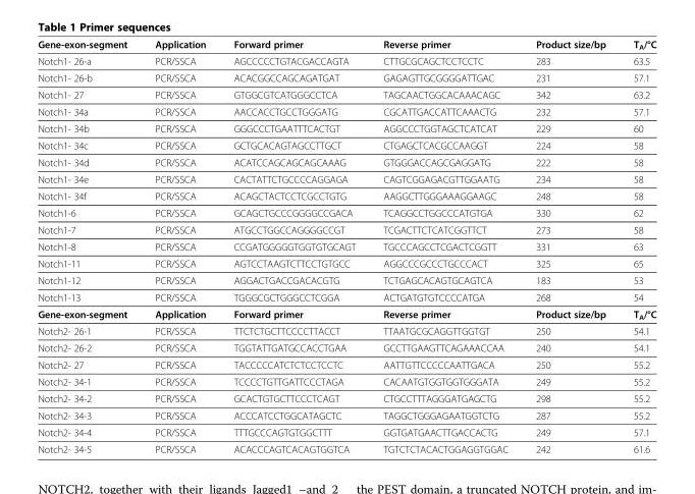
<table><thead><tr><td>Gene-exon-segment</td><td>Application</td><td>Forward primer</td><td>Reverse primer</td><td>Product size/bp</td><td>T<sub>A</sub>/°C</td></tr></thead><tbody><tr><td>Notch1- 26-a</td><td>PCR/SSCA</td><td>AGCCCCCTGTACGACCAGTA</td><td>CTTGCGCAGCTCCTCCTC</td><td>283</td><td>63.5</td></tr><tr><td>Notch1- 26-b</td><td>PCR/SSCA</td><td>ACACGGCCAGCAGATGAT</td><td>GAGAGTTGCGGGGATTGAC</td><td>231</td><td>57.1</td></tr><tr><td>Notch1- 27</td><td>PCR/SSCA</td><td>GTGGCGTCATGGGCCTCA</td><td>TAGCAACTGGCACAAACAGC</td><td>342</td><td>63.2</td></tr><tr><td>Notch1- 34a</td><td>PCR/SSCA</td><td>AACCACCTGCCTGGGATG</td><td>CGCATTGACCATTCAAACTG</td><td>232</td><td>57.1</td></tr><tr><td>Notch1- 34b</td><td>PCR/SSCA</td><td>GGGCCCTGAATTTCACTGT</td><td>AGGCCCTGGTAGCTCATCAT</td><td>229</td><td>60</td></tr><tr><td>Notch1- 34c</td><td>PCR/SSCA</td><td>GCTGCACAGTAGCCTTGCT</td><td>CTGAGCTCACGCCAAGGT</td><td>224</td><td>58</td></tr><tr><td>Notch1- 34d</td><td>PCR/SSCA</td><td>ACATCCAGCAGCAGCAAAG</td><td>GTGGGACCAGCGAGGATG</td><td>222</td><td>58</td></tr><tr><td>Notch1- 34e</td><td>PCR/SSCA</td><td>CACTATTCTGCCCCAGGAGA</td><td>CAGTCGGAGACGTTGGAATG</td><td>234</td><td>58</td></tr><tr><td>Notch1- 34f</td><td>PCR/SSCA</td><td>ACAGCTACTCCTCGCCTGTG</td><td>AAGGCTTGGGAAAGGAAGC</td><td>248</td><td>58</td></tr><tr><td>Notch1-6</td><td>PCR/SSCA</td><td>GCAGCTGCCCGGGGCCGACA</td><td>TCAGGCCTGGCCCATGTGA</td><td>330</td><td>62</td></tr><tr><td>Notch1-7</td><td>PCR/SSCA</td><td>ATGCCTGGCCAGGGGCCGT</td><td>TCGACTTCTCATCGGTTCT</td><td>273</td><td>58</td></tr><tr><td>Notch1-8</td><td>PCR/SSCA</td><td>CCGATGGGGGTGGTGTGCAGT</td><td>TGCCCAGCCTCGACTCGGTT</td><td>331</td><td>63</td></tr><tr><td>Notch1-11</td><td>PCR/SSCA</td><td>AGTCCTAAGTCTTCCTGTGCC</td><td>AGGCCCGCCCTGCCCACT</td><td>325</td><td>65</td></tr><tr><td>Notch1-12</td><td>PCR/SSCA</td><td>AGGACTGACCGACACGTG</td><td>TCTGAGCACAGTGCAGTCA</td><td>183</td><td>53</td></tr><tr><td>Notch1-13</td><td>PCR/SSCA</td><td>TGGGCGCTGGGCCTCGGA</td><td>ACTGATGTGTCCCCATGA</td><td>268</td><td>54</td></tr><tr><td>Gene-exon-segment</td><td>Application</td><td>Forward primer</td><td>Reverse primer</td><td>Product size/bp</td><td>T<sub>A</sub>/°C</td></tr><tr><td>Notch2- 26-1</td><td>PCR/SSCA</td><td>TTCTCTGCTTCCCCTTACCT</td><td>TTAATGCGCAGGTTGGTGT</td><td>250</td><td>54.1</td></tr><tr><td>Notch2- 26-2</td><td>PCR/SSCA</td><td>TGGTATTGATGCCACCTGAA</td><td>GCCTTGAAGTTCAGAAACCAA</td><td>240</td><td>54.1</td></tr><tr><td>Notch2- 27</td><td>PCR/SSCA</td><td>TACCCCCATCTCTCCTCCTC</td><td>AATTGTTCCCCCAATTGACA</td><td>250</td><td>55.2</td></tr><tr><td>Notch2- 34-1</td><td>PCR/SSCA</td><td>TCCCCTGTTGATTCCCTAGA</td><td>CACAATGTGGTGGTGGGATA</td><td>249</td><td>55.2</td></tr><tr><td>Notch2- 34-2</td><td>PCR/SSCA</td><td>GCACTGTGCTTCCCTCAGT</td><td>CTGCCTTTAGGGATGAGCTG</td><td>298</td><td>55.2</td></tr><tr><td>Notch2- 34-3</td><td>PCR/SSCA</td><td>ACCCATCCTGGCATAGCTC</td><td>TAGGCTGGGAGAATGGTCTG</td><td>287</td><td>55.2</td></tr><tr><td>Notch2- 34-4</td><td>PCR/SSCA</td><td>TTTGCCCAGTGTGGCTTT</td><td>GGTGATGAACTTGACCACTG</td><td>249</td><td>57.1</td></tr><tr><td>Notch2- 34-5</td><td>PCR/SSCA</td><td>ACACCCAGTCACAGTGGTCA</td><td>TGTCTCTACACTGGAGGTGGAC</td><td>242</td><td>61.6</td></tr></tbody></table>